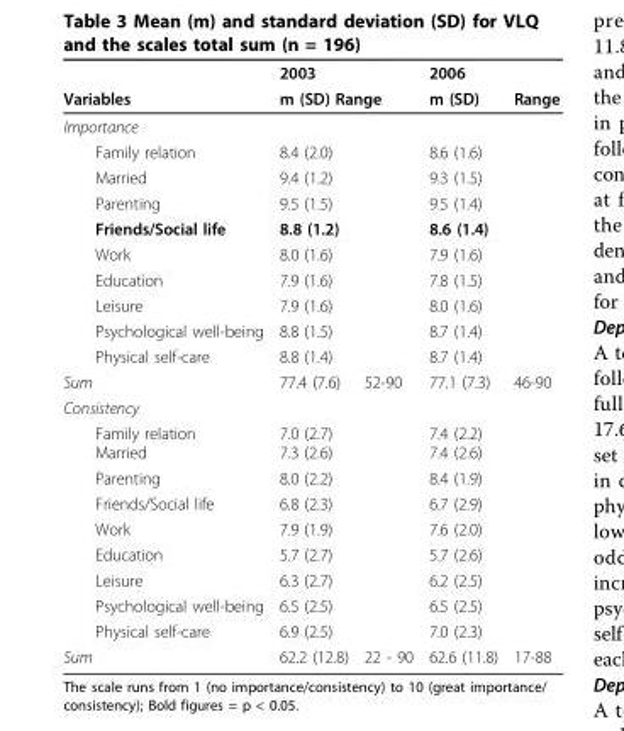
<table><thead><tr><td rowspan="3">Variables Importance</td><td rowspan="2" colspan="2">2003 m (SD) Range</td><td rowspan="3">2006 m (SD)</td><td rowspan="3">Range</td></tr><tr></tr><tr><td></td><td></td></tr></thead><tbody><tr><td>Family relation</td><td>8.4 (2.0)</td><td></td><td>8.6 (1.6)</td><td></td></tr><tr><td>Married</td><td>9.4 (1.2)</td><td></td><td>9.3 (1.5)</td><td></td></tr><tr><td>Parenting</td><td>9.5 (1.5)</td><td></td><td>9.5 (1.4)</td><td></td></tr><tr><td>Friends/Social life</td><td>8.8 (1.2)</td><td></td><td>8.6 (1.4)</td><td></td></tr><tr><td>Work</td><td>8.0 (1.6)</td><td></td><td>7.9 (1.6)</td><td></td></tr><tr><td>Education</td><td>7.9 (1.6)</td><td></td><td>7.8 (1.5)</td><td></td></tr><tr><td>Leisure</td><td>7.9 (1.6)</td><td></td><td>8.0 (1.6)</td><td></td></tr><tr><td>Psychological well-being</td><td>8.8 (1.5)</td><td></td><td>8.7 (1.4)</td><td></td></tr><tr><td>Physical self-care</td><td>8.8 (1.4)</td><td></td><td>8.7 (1.4)</td><td></td></tr><tr><td>Sum</td><td>77.4 (7.6)</td><td>52-90</td><td>77.1 (7.3)</td><td>46-90</td></tr><tr><td colspan="5">Consistency</td></tr><tr><td>Family relation Married</td><td>7.0 (2.7) 7.3 (2.6)</td><td></td><td>7.4 (2.2) 7.4 (2.6)</td><td></td></tr><tr><td>Parenting</td><td>8.0 (2.2)</td><td></td><td>8.4 (1.9)</td><td></td></tr><tr><td>Friends/Social life</td><td>6.8 (2.3)</td><td></td><td>6.7 (2.9)</td><td></td></tr><tr><td>Work</td><td>7.9 (1.9)</td><td></td><td>7.6 (2.0)</td><td></td></tr><tr><td>Education</td><td>5.7 (2.7)</td><td></td><td>5.7 (2.6)</td><td></td></tr><tr><td>Leisure</td><td>6.3 (2.7)</td><td></td><td>6.2 (2.5)</td><td></td></tr><tr><td>Psychological well-being</td><td>6.5 (2.5)</td><td></td><td>6.5 (2.5)</td><td></td></tr><tr><td>Physical self-care</td><td>6.9 (2.5)</td><td></td><td>7.0 (2.3)</td><td></td></tr><tr><td>Sum</td><td>62.2 (12.8)</td><td>22 - 90</td><td>62.6 (11.8)</td><td>17-88</td></tr></tbody></table>